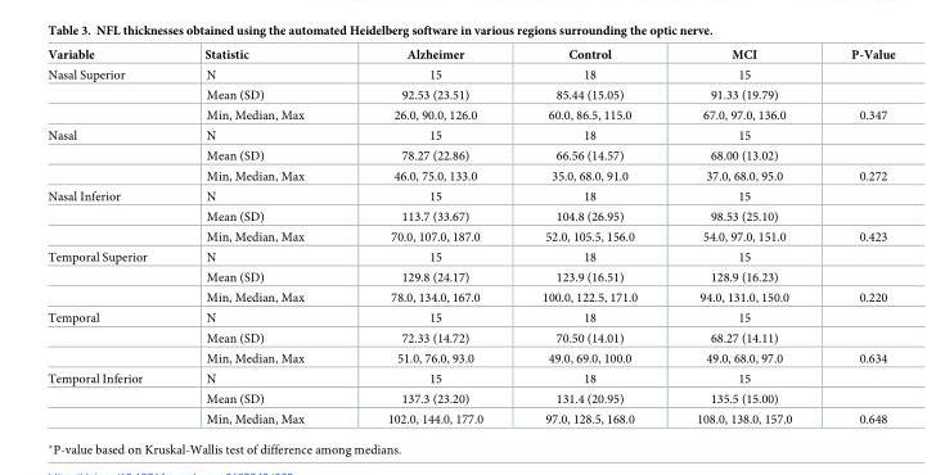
<table><thead><tr><td>Variable</td><td>Statistic</td><td>Alzheimer</td><td>Control</td><td>MCI</td><td>P-Value</td></tr></thead><tbody><tr><td rowspan="3">Nasal Superior</td><td>N</td><td>15</td><td>18</td><td>15</td><td></td></tr><tr><td>Mean (SD)</td><td>92.53 (23.51)</td><td>85.44 (15.05)</td><td>91.33 (19.79)</td><td></td></tr><tr><td>Min, Median, Max</td><td>26.0, 90.0, 126.0</td><td>60.0, 86.5, 115.0</td><td>67.0, 97.0, 136.0</td><td>0.347</td></tr><tr><td rowspan="3">Nasal</td><td>N</td><td>15</td><td>18</td><td>15</td><td></td></tr><tr><td>Mean (SD)</td><td>78.27 (22.86)</td><td>66.56 (14.57)</td><td>68.00 (13.02)</td><td></td></tr><tr><td>Min, Median, Max</td><td>46.0, 75.0, 133.0</td><td>35.0, 68.0, 91.0</td><td>37.0, 68.0, 95.0</td><td>0.272</td></tr><tr><td rowspan="3">Nasal Inferior</td><td>N</td><td>15</td><td>18</td><td>15</td><td></td></tr><tr><td>Mean (SD)</td><td>113.7 (33.67)</td><td>104.8 (26.95)</td><td>98.53 (25.10)</td><td></td></tr><tr><td>Min, Median, Max</td><td>70.0, 107.0, 187.0</td><td>52.0, 105.5, 156.0</td><td>54.0, 97.0, 151.0</td><td>0.423</td></tr><tr><td rowspan="3">Temporal Superior</td><td>N</td><td>15</td><td>18</td><td>15</td><td></td></tr><tr><td>Mean (SD)</td><td>129.8 (24.17)</td><td>123.9 (16.51)</td><td>128.9 (16.23)</td><td></td></tr><tr><td>Min, Median, Max</td><td>78.0, 134.0, 167.0</td><td>100.0, 122.5, 171.0</td><td>94.0, 131.0, 150.0</td><td>0.220</td></tr><tr><td rowspan="3">Temporal</td><td>N</td><td>15</td><td>18</td><td>15</td><td></td></tr><tr><td>Mean (SD)</td><td>72.33 (14.72)</td><td>70.50 (14.01)</td><td>68.27 (14.11)</td><td></td></tr><tr><td>Min, Median, Max</td><td>51.0, 76.0, 93.0</td><td>49.0, 69.0, 100.0</td><td>49.0, 68.0, 97.0</td><td>0.634</td></tr><tr><td rowspan="3">Temporal Inferior</td><td>N</td><td>15</td><td>18</td><td>15</td><td></td></tr><tr><td>Mean (SD)</td><td>137.3 (23.20)</td><td>131.4 (20.95)</td><td>135.5 (15.00)</td><td></td></tr><tr><td>Min, Median, Max</td><td>102.0, 144.0, 177.0</td><td>97.0, 128.5, 168.0</td><td>108.0, 138.0, 157.0</td><td>0.648</td></tr></tbody></table>